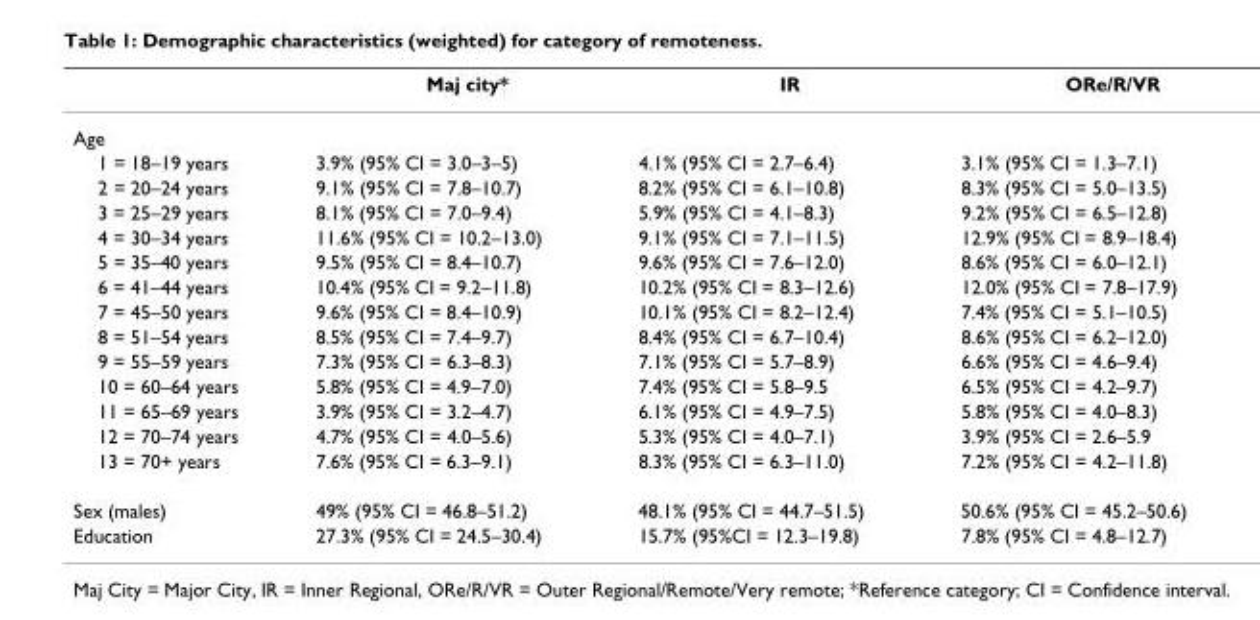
<table><thead><tr><td></td><td>Maj city*</td><td>IR</td><td>ORe/R/VR</td></tr></thead><tbody><tr><td colspan="4">Age</td></tr><tr><td>1 = 18–19 years</td><td>3.9% (95% CI = 3.0–3–5)</td><td>4.1% (95% CI = 2.7–6.4)</td><td>3.1% (95% CI = 1.3–7.1)</td></tr><tr><td>2 = 20–24 years</td><td>9.1% (95% CI = 7.8–10.7)</td><td>8.2% (95% CI = 6.1–10.8)</td><td>8.3% (95% CI = 5.0–13.5)</td></tr><tr><td>3 = 25–29 years</td><td>8.1% (95% CI = 7.0–9.4)</td><td>5.9% (95% CI = 4.1–8.3)</td><td>9.2% (95% CI = 6.5–12.8)</td></tr><tr><td>4 = 30–34 years</td><td>11.6% (95% CI = 10.2–13.0)</td><td>9.1% (95% CI = 7.1–11.5)</td><td>12.9% (95% CI = 8.9–18.4)</td></tr><tr><td>5 = 35–40 years</td><td>9.5% (95% CI = 8.4–10.7)</td><td>9.6% (95% CI = 7.6–12.0)</td><td>8.6% (95% CI = 6.0–12.1)</td></tr><tr><td>6 = 41–44 years</td><td>10.4% (95% CI = 9.2–11.8)</td><td>10.2% (95% CI = 8.3–12.6)</td><td>12.0% (95% CI = 7.8–17.9)</td></tr><tr><td>7 = 45–50 years</td><td>9.6% (95% CI = 8.4–10.9)</td><td>10.1% (95% CI = 8.2–12.4)</td><td>7.4% (95% CI = 5.1–10.5)</td></tr><tr><td>8 = 51–54 years</td><td>8.5% (95% CI = 7.4–9.7)</td><td>8.4% (95% CI = 6.7–10.4)</td><td>8.6% (95% CI = 6.2–12.0)</td></tr><tr><td>9 = 55–59 years</td><td>7.3% (95% CI = 6.3–8.3)</td><td>7.1% (95% CI = 5.7–8.9)</td><td>6.6% (95% CI = 4.6–9.4)</td></tr><tr><td>10 = 60–64 years</td><td>5.8% (95% CI = 4.9–7.0)</td><td>7.4% (95% CI = 5.8–9.5</td><td>6.5% (95% CI = 4.2–9.7)</td></tr><tr><td>11 = 65–69 years</td><td>3.9% (95% CI = 3.2–4.7)</td><td>6.1% (95% CI = 4.9–7.5)</td><td>5.8% (95% CI = 4.0–8.3)</td></tr><tr><td>12 = 70–74 years</td><td>4.7% (95% CI = 4.0–5.6)</td><td>5.3% (95% CI = 4.0–7.1)</td><td>3.9% (95% CI = 2.6–5.9</td></tr><tr><td>13 = 70+ years</td><td>7.6% (95% CI = 6.3–9.1)</td><td>8.3% (95% CI = 6.3–11.0)</td><td>7.2% (95% CI = 4.2–11.8)</td></tr><tr><td>Sex (males)</td><td>49% (95% CI = 46.8–51.2)</td><td>48.1% (95% CI = 44.7–51.5)</td><td>50.6% (95% CI = 45.2–50.6)</td></tr><tr><td>Education</td><td>27.3% (95% CI = 24.5–30.4)</td><td>15.7% (95%CI = 12.3–19.8)</td><td>7.8% (95% CI = 4.8–12.7)</td></tr></tbody></table>